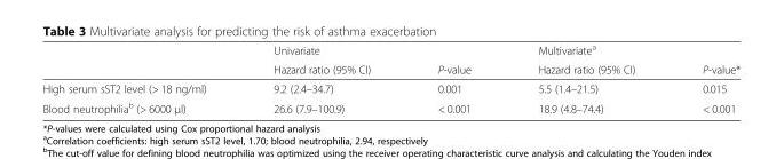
<table><thead><tr><td rowspan="2"></td><td rowspan="2">Univariate Hazard ratio (95% CI)</td><td rowspan="2">P-value</td><td rowspan="2">Multivariate<sup>a</sup> Hazard ratio (95% CI)</td><td rowspan="2">P-value*</td></tr><tr></tr></thead><tbody><tr><td>High serum sST2 level (&gt; 18 ng/ml)</td><td>9.2 (2.4–34.7)</td><td>0.001</td><td>5.5 (1.4–21.5)</td><td>0.015</td></tr><tr><td>Blood neutrophilia<sup>b</sup> (&gt; 6000 μl)</td><td>26.6 (7.9–100.9)</td><td>&lt; 0.001</td><td>18.9 (4.8–74.4)</td><td>&lt; 0.001</td></tr></tbody></table>